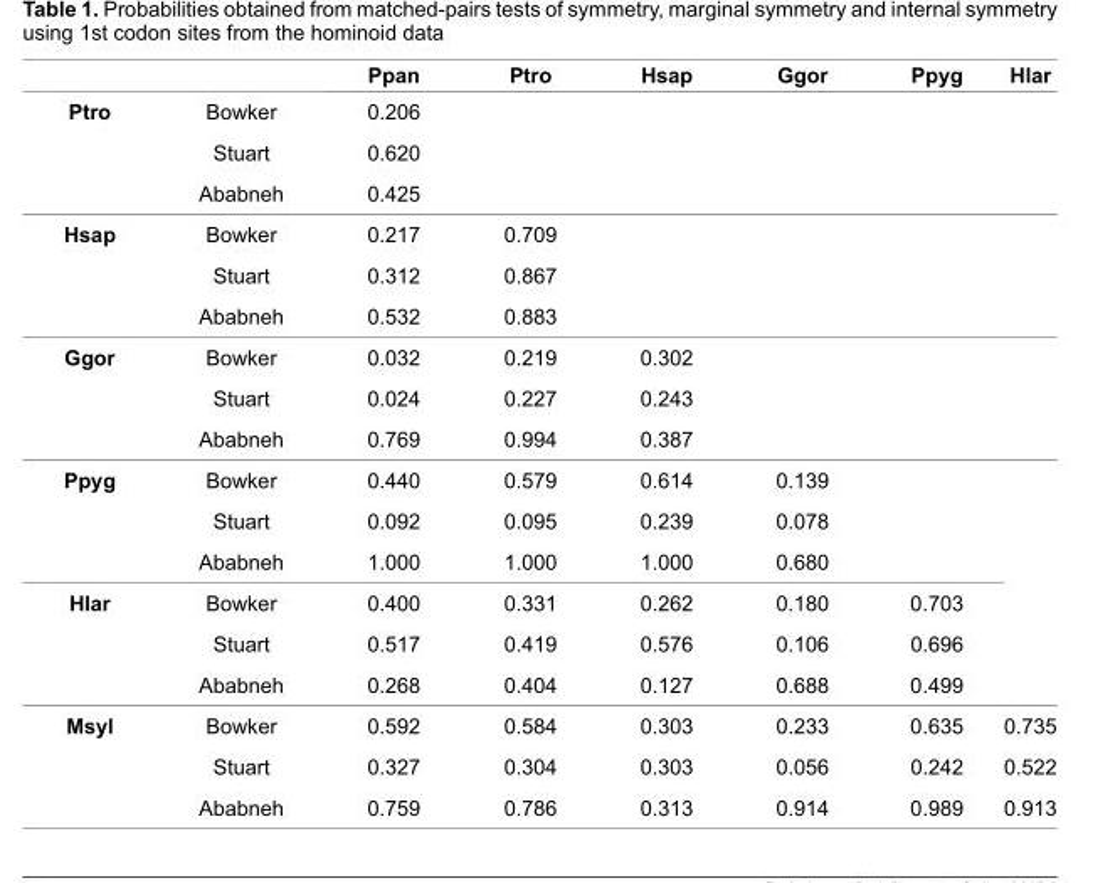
<table><thead><tr><td></td><td></td><td>Ppan</td><td>Ptro</td><td>Hsap</td><td>Ggor</td><td>Ppyg</td><td>Hlar</td></tr></thead><tbody><tr><td rowspan="3">Ptro</td><td>Bowker</td><td>0.206</td><td></td><td></td><td></td><td></td><td></td></tr><tr><td>Stuart</td><td>0.620</td><td></td><td></td><td></td><td></td><td></td></tr><tr><td>Ababneh</td><td>0.425</td><td></td><td></td><td></td><td></td><td></td></tr><tr><td rowspan="3">Hsap</td><td>Bowker</td><td>0.217</td><td>0.709</td><td></td><td></td><td></td><td></td></tr><tr><td>Stuart</td><td>0.312</td><td>0.867</td><td></td><td></td><td></td><td></td></tr><tr><td>Ababneh</td><td>0.532</td><td>0.883</td><td></td><td></td><td></td><td></td></tr><tr><td rowspan="3">Ggor</td><td>Bowker</td><td>0.032</td><td>0.219</td><td>0.302</td><td></td><td></td><td></td></tr><tr><td>Stuart</td><td>0.024</td><td>0.227</td><td>0.243</td><td></td><td></td><td></td></tr><tr><td>Ababneh</td><td>0.769</td><td>0.994</td><td>0.387</td><td></td><td></td><td></td></tr><tr><td rowspan="3">Ppyg</td><td>Bowker</td><td>0.440</td><td>0.579</td><td>0.614</td><td>0.139</td><td></td><td></td></tr><tr><td>Stuart</td><td>0.092</td><td>0.095</td><td>0.239</td><td>0.078</td><td></td><td></td></tr><tr><td>Ababneh</td><td>1.000</td><td>1.000</td><td>1.000</td><td>0.680</td><td></td><td></td></tr><tr><td rowspan="3">Hlar</td><td>Bowker</td><td>0.400</td><td>0.331</td><td>0.262</td><td>0.180</td><td>0.703</td><td></td></tr><tr><td>Stuart</td><td>0.517</td><td>0.419</td><td>0.576</td><td>0.106</td><td>0.696</td><td></td></tr><tr><td>Ababneh</td><td>0.268</td><td>0.404</td><td>0.127</td><td>0.688</td><td>0.499</td><td></td></tr><tr><td rowspan="3">Msyl</td><td>Bowker</td><td>0.592</td><td>0.584</td><td>0.303</td><td>0.233</td><td>0.635</td><td>0.735</td></tr><tr><td>Stuart</td><td>0.327</td><td>0.304</td><td>0.303</td><td>0.056</td><td>0.242</td><td>0.522</td></tr><tr><td>Ababneh</td><td>0.759</td><td>0.786</td><td>0.313</td><td>0.914</td><td>0.989</td><td>0.913</td></tr></tbody></table>